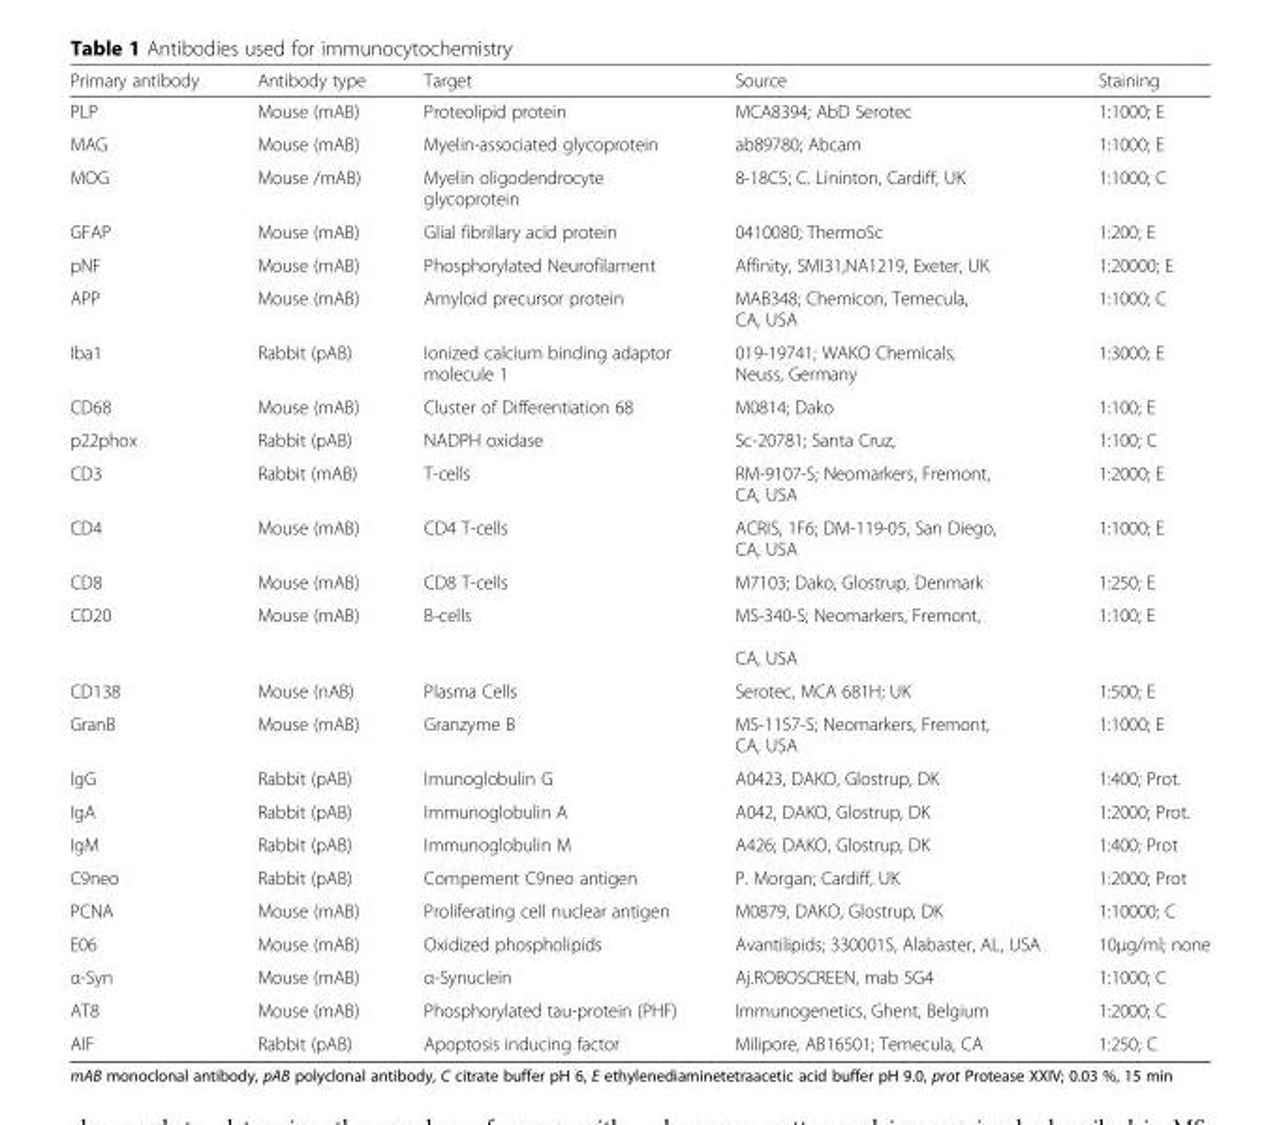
<table><thead><tr><td>Primary antibody</td><td>Antibody type</td><td>Target</td><td>Source</td><td>Staining</td></tr></thead><tbody><tr><td>PLP</td><td>Mouse (mAB)</td><td>Proteolipid protein</td><td>MCA8394; AbD Serotec</td><td>1:1000; E</td></tr><tr><td>MAG</td><td>Mouse (mAB)</td><td>Myelin-associated glycoprotein</td><td>ab89780; Abcam</td><td>1:1000; E</td></tr><tr><td>MOG</td><td>Mouse /mAB)</td><td>Myelin oligodendrocyte glycoprotein</td><td>8-18C5; C. Lininton, Cardiff, UK</td><td>1:1000; C</td></tr><tr><td>GFAP</td><td>Mouse (mAB)</td><td>Glial fibrillary acid protein</td><td>0410080; ThermoSc</td><td>1:200; E</td></tr><tr><td>pNF</td><td>Mouse (mAB)</td><td>Phosphorylated Neurofilament</td><td>Affinity, SMI31,NA1219, Exeter, UK</td><td>1:20000; E</td></tr><tr><td>APP</td><td>Mouse (mAB)</td><td>Amyloid precursor protein</td><td>MAB348; Chemicon, Temecula, CA, USA</td><td>1:1000; C</td></tr><tr><td>Iba1</td><td>Rabbit (pAB)</td><td>Ionized calcium binding adaptor molecule 1</td><td>019-19741; WAKO Chemicals, Neuss, Germany</td><td>1:3000; E</td></tr><tr><td>CD68</td><td>Mouse (mAB)</td><td>Cluster of Differentiation 68</td><td>M0814; Dako</td><td>1:100; E</td></tr><tr><td>p22phox</td><td>Rabbit (pAB)</td><td>NADPH oxidase</td><td>Sc-20781; Santa Cruz,</td><td>1:100; C</td></tr><tr><td>CD3</td><td>Rabbit (mAB)</td><td>T-cells</td><td>RM-9107-S; Neomarkers, Fremont, CA, USA</td><td>1:2000; E</td></tr><tr><td>CD4</td><td>Mouse (mAB)</td><td>CD4 T-cells</td><td>ACRIS, 1F6; DM-119-05, San Diego, CA, USA</td><td>1:1000; E</td></tr><tr><td>CD8</td><td>Mouse (mAB)</td><td>CD8 T-cells</td><td>M7103; Dako, Glostrup, Denmark</td><td>1:250; E</td></tr><tr><td>CD20</td><td>Mouse (mAB)</td><td>B-cells</td><td>MS-340-S; Neomarkers, Fremont, CA, USA</td><td>1:100; E</td></tr><tr><td>CD138</td><td>Mouse (nAB)</td><td>Plasma Cells</td><td>Serotec, MCA 681H; UK</td><td>1:500; E</td></tr><tr><td>GranB</td><td>Mouse (mAB)</td><td>Granzyme B</td><td>MS-1157-S; Neomarkers, Fremont, CA, USA</td><td>1:1000; E</td></tr><tr><td>IgG</td><td>Rabbit (pAB)</td><td>Imunoglobulin G</td><td>A0423, DAKO, Glostrup, DK</td><td>1:400; Prot.</td></tr><tr><td>IgA</td><td>Rabbit (pAB)</td><td>Immunoglobulin A</td><td>A042, DAKO, Glostrup, DK</td><td>1:2000; Prot.</td></tr><tr><td>IgM</td><td>Rabbit (pAB)</td><td>Immunoglobulin M</td><td>A426; DAKO, Glostrup, DK</td><td>1:400; Prot</td></tr><tr><td>C9neo</td><td>Rabbit (pAB)</td><td>Compement C9neo antigen</td><td>P. Morgan; Cardiff, UK</td><td>1:2000; Prot</td></tr><tr><td>PCNA</td><td>Mouse (mAB)</td><td>Proliferating cell nuclear antigen</td><td>M0879, DAKO, Glostrup, DK</td><td>1:10000; C</td></tr><tr><td>E06</td><td>Mouse (mAB)</td><td>Oxidized phospholipids</td><td>Avantilipids; 330001S, Alabaster, AL, USA</td><td>10μg/ml; none</td></tr><tr><td>α-Syn</td><td>Mouse (mAB)</td><td>α-Synuclein</td><td>Aj.ROBOSCREEN, mab 5G4</td><td>1:1000; C</td></tr><tr><td>AT8</td><td>Mouse (mAB)</td><td>Phosphorylated tau-protein (PHF)</td><td>Immunogenetics, Ghent, Belgium</td><td>1:2000; C</td></tr><tr><td>AIF</td><td>Rabbit (pAB)</td><td>Apoptosis inducing factor</td><td>Milipore, AB16501; Temecula, CA</td><td>1:250; C</td></tr></tbody></table>